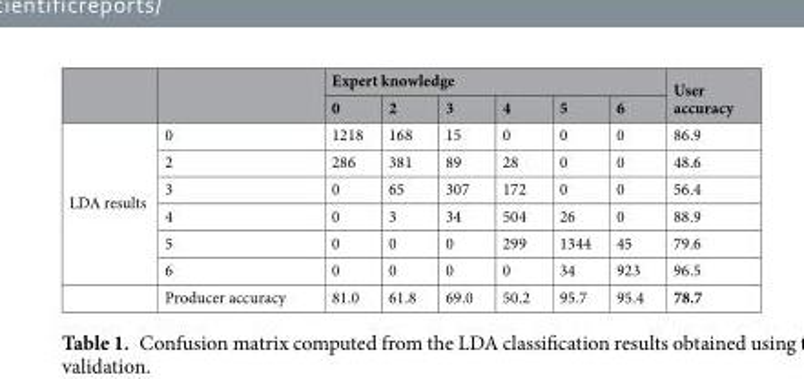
<table><thead><tr><td rowspan="2"></td><td rowspan="2"></td><td colspan="6">Expert knowledge</td><td rowspan="2">User accuracy</td></tr><tr><td>0</td><td>2</td><td>3</td><td>4</td><td>5</td><td>6</td></tr></thead><tbody><tr><td rowspan="7">LDA results</td><td>0</td><td>1218</td><td>168</td><td>15</td><td>0</td><td>0</td><td>0</td><td>86.9</td></tr><tr><td>2</td><td>286</td><td>381</td><td>89</td><td>28</td><td>0</td><td>0</td><td>48.6</td></tr><tr><td>3</td><td>0</td><td>65</td><td>307</td><td>172</td><td>0</td><td>0</td><td>56.4</td></tr><tr><td>4</td><td>0</td><td>3</td><td>34</td><td>504</td><td>26</td><td>0</td><td>88.9</td></tr><tr><td>5</td><td>0</td><td>0</td><td>0</td><td>299</td><td>1344</td><td>45</td><td>79.6</td></tr><tr><td>6</td><td>0</td><td>0</td><td>0</td><td>0</td><td>34</td><td>923</td><td>96.5</td></tr><tr><td>Producer accuracy</td><td>81.0</td><td>61.8</td><td>69.0</td><td>50.2</td><td>95.7</td><td>95.4</td><td>78.7</td></tr></tbody></table>